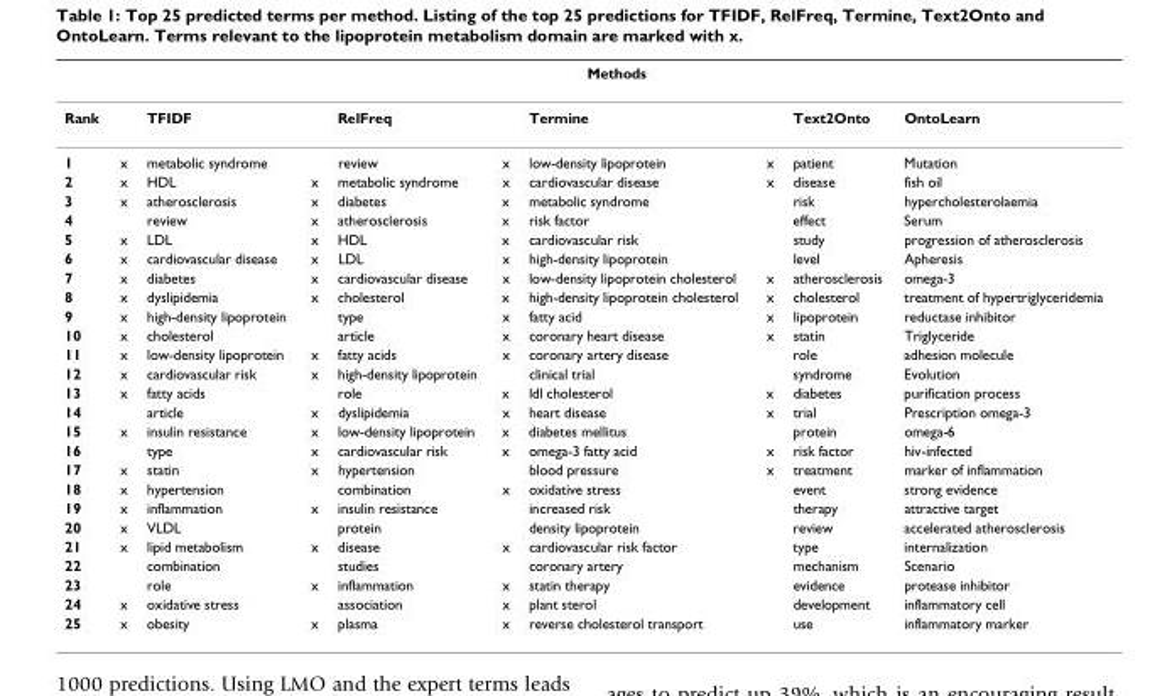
<table><thead><tr><td rowspan="2">Rank</td><td colspan="9">Methods</td></tr><tr><td></td><td>TFIDF</td><td></td><td>RelFreq</td><td></td><td>Termine</td><td></td><td>Text2Onto</td><td>OntoLearn</td></tr></thead><tbody><tr><td>1</td><td>x</td><td>metabolic syndrome</td><td></td><td>review</td><td>x</td><td>low-density lipoprotein</td><td>x</td><td>patient</td><td>Mutation</td></tr><tr><td>2</td><td>x</td><td>HDL</td><td>x</td><td>metabolic syndrome</td><td>x</td><td>cardiovascular disease</td><td>x</td><td>disease</td><td>fish oil</td></tr><tr><td>3</td><td>x</td><td>atherosclerosis</td><td>x</td><td>diabetes</td><td>x</td><td>metabolic syndrome</td><td></td><td>risk</td><td>hypercholesterolaemia</td></tr><tr><td>4</td><td></td><td>review</td><td>x</td><td>atherosclerosis</td><td>x</td><td>risk factor</td><td></td><td>effect</td><td>Serum</td></tr><tr><td>5</td><td>x</td><td>LDL</td><td>x</td><td>HDL</td><td>x</td><td>cardiovascular risk</td><td></td><td>study</td><td>progression of atherosclerosis</td></tr><tr><td>6</td><td>x</td><td>cardiovascular disease</td><td>x</td><td>LDL</td><td>x</td><td>high-density lipoprotein</td><td></td><td>level</td><td>Apheresis</td></tr><tr><td>7</td><td>x</td><td>diabetes</td><td>x</td><td>cardiovascular disease</td><td>x</td><td>low-density lipoprotein cholesterol</td><td>x</td><td>atherosclerosis</td><td>omega-3</td></tr><tr><td>8</td><td>x</td><td>dyslipidemia</td><td>x</td><td>cholesterol</td><td>x</td><td>high-density lipoprotein cholesterol</td><td>x</td><td>cholesterol</td><td>treatment of hypertriglyceridemia</td></tr><tr><td>9</td><td>x</td><td>high-density lipoprotein</td><td></td><td>type</td><td>x</td><td>fatty acid</td><td>x</td><td>lipoprotein</td><td>reductase inhibitor</td></tr><tr><td>10</td><td>x</td><td>cholesterol</td><td></td><td>article</td><td>x</td><td>coronary heart disease</td><td>x</td><td>statin</td><td>Triglyceride</td></tr><tr><td>11</td><td>x</td><td>low-density lipoprotein</td><td>x</td><td>fatty acids</td><td>x</td><td>coronary artery disease</td><td></td><td>role</td><td>adhesion molecule</td></tr><tr><td>12</td><td>x</td><td>cardiovascular risk</td><td>x</td><td>high-density lipoprotein</td><td></td><td>clinical trial</td><td></td><td>syndrome</td><td>Evolution</td></tr><tr><td>13</td><td>x</td><td>fatty acids</td><td></td><td>role</td><td>x</td><td>ldl cholesterol</td><td>x</td><td>diabetes</td><td>purification process</td></tr><tr><td>14</td><td></td><td>article</td><td>x</td><td>dyslipidemia</td><td>x</td><td>heart disease</td><td>x</td><td>trial</td><td>Prescription omega-3</td></tr><tr><td>15</td><td>x</td><td>insulin resistance</td><td>x</td><td>low-density lipoprotein</td><td>x</td><td>diabetes mellitus</td><td></td><td>protein</td><td>omega-6</td></tr><tr><td>16</td><td></td><td>type</td><td>x</td><td>cardiovascular risk</td><td>x</td><td>omega-3 fatty acid</td><td>x</td><td>risk factor</td><td>hiv-infected</td></tr><tr><td>17</td><td>x</td><td>statin</td><td>x</td><td>hypertension</td><td></td><td>blood pressure</td><td>x</td><td>treatment</td><td>marker of inflammation</td></tr><tr><td>18</td><td>x</td><td>hypertension</td><td></td><td>combination</td><td>x</td><td>oxidative stress</td><td></td><td>event</td><td>strong evidence</td></tr><tr><td>19</td><td>x</td><td>inflammation</td><td>x</td><td>insulin resistance</td><td></td><td>increased risk</td><td></td><td>therapy</td><td>attractive target</td></tr><tr><td>20</td><td>x</td><td>VLDL</td><td></td><td>protein</td><td></td><td>density lipoprotein</td><td></td><td>review</td><td>accelerated atherosclerosis</td></tr><tr><td>21</td><td>x</td><td>lipid metabolism</td><td>x</td><td>disease</td><td>x</td><td>cardiovascular risk factor</td><td></td><td>type</td><td>internalization</td></tr><tr><td>22</td><td></td><td>combination</td><td></td><td>studies</td><td></td><td>coronary artery</td><td></td><td>mechanism</td><td>Scenario</td></tr><tr><td>23</td><td></td><td>role</td><td>x</td><td>inflammation</td><td>x</td><td>statin therapy</td><td></td><td>evidence</td><td>protease inhibitor</td></tr><tr><td>24</td><td>x</td><td>oxidative stress</td><td></td><td>association</td><td>x</td><td>plant sterol</td><td></td><td>development</td><td>inflammatory cell</td></tr><tr><td>25</td><td>x</td><td>obesity</td><td>x</td><td>plasma</td><td>x</td><td>reverse cholesterol transport</td><td></td><td>use</td><td>inflammatory marker</td></tr></tbody></table>